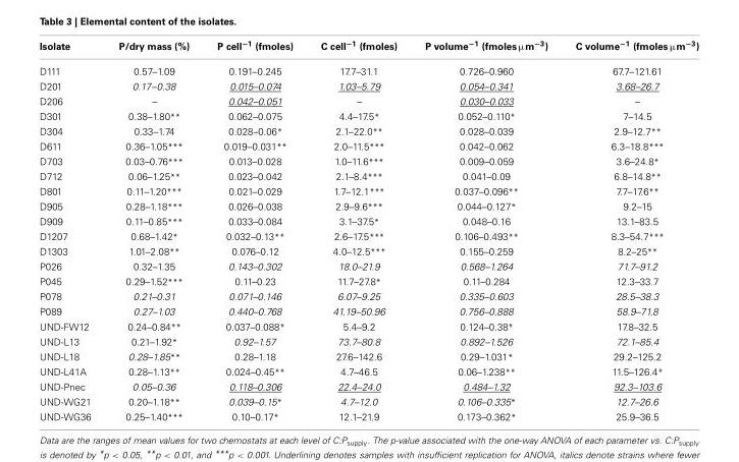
<table><thead><tr><td>Isolate</td><td>P/dry mass (%)</td><td>P cell<sup>−1</sup> (fmoles)</td><td>C cell<sup>−1</sup> (fmoles)</td><td>P volume<sup>−1</sup> (fmoles µm<sup>−3</sup>)</td><td>C volume<sup>−1</sup> (fmoles µm<sup>−3</sup>)</td></tr></thead><tbody><tr><td>D111</td><td>0.57–1.09</td><td>0.191–0.245</td><td>17.7–31.1</td><td>0.726–0.960</td><td>67.7–121.61</td></tr><tr><td>D201</td><td>0.17–0.38</td><td>0.015–0.074</td><td>1.03–5.79</td><td>0.054–0.341</td><td>3.68–26.7</td></tr><tr><td>D206</td><td>–</td><td>0.042–0.051</td><td>–</td><td>0.030–0.033</td><td>–</td></tr><tr><td>D301</td><td>0.38–1.80**</td><td>0.062–0.075</td><td>4.4–17.5*</td><td>0.052–0.110*</td><td>7–14.5</td></tr><tr><td>D304</td><td>0.33–1.74</td><td>0.028–0.06*</td><td>2.1–22.0**</td><td>0.028–0.039</td><td>2.9–12.7**</td></tr><tr><td>D611</td><td>0.36–1.05***</td><td>0.019–0.031**</td><td>2.0–11.5***</td><td>0.042–0.062</td><td>6.3–18.8***</td></tr><tr><td>D703</td><td>0.03–0.76***</td><td>0.013–0.028</td><td>1.0–11.6***</td><td>0.009–0.059</td><td>3.6–24.8*</td></tr><tr><td>D712</td><td>0.06–1.25**</td><td>0.023–0.042</td><td>2.1–8.4***</td><td>0.041–0.09</td><td>6.8–14.8**</td></tr><tr><td>D801</td><td>0.11–1.20***</td><td>0.021–0.029</td><td>1.7–12.1***</td><td>0.037–0.096**</td><td>7.7–17.6**</td></tr><tr><td>D905</td><td>0.28–1.18***</td><td>0.026–0.038</td><td>2.9–9.6***</td><td>0.044–0.127*</td><td>9.2–15</td></tr><tr><td>D909</td><td>0.11–0.85***</td><td>0.033–0.084</td><td>3.1–37.5*</td><td>0.048–0.16</td><td>13.1–83.5</td></tr><tr><td>D1207</td><td>0.68–1.42*</td><td>0.032–0.13**</td><td>2.6–17.5***</td><td>0.106–0.493**</td><td>8.3–54.7***</td></tr><tr><td>D1303</td><td>1.01–2.08**</td><td>0.076–0.12</td><td>4.0–12.5***</td><td>0.155–0.259</td><td>8.2–25**</td></tr><tr><td>P026</td><td>0.32–1.35</td><td>0.143–0.302</td><td>18.0–21.9</td><td>0.568–1.264</td><td>71.7–91.2</td></tr><tr><td>P045</td><td>0.29–1.52***</td><td>0.11–0.23</td><td>11.7–27.8*</td><td>0.11–0.284</td><td>12.3–33.7</td></tr><tr><td>P078</td><td>0.21–0.31</td><td>0.071–0.146</td><td>6.07–9.25</td><td>0.335–0.603</td><td>28.5–38.3</td></tr><tr><td>P089</td><td>0.27–1.03</td><td>0.440–0.768</td><td>41.19–50.96</td><td>0.756–0.888</td><td>58.9–71.8</td></tr><tr><td>UND-FW12</td><td>0.24–0.84**</td><td>0.037–0.088*</td><td>5.4–9.2</td><td>0.124–0.38*</td><td>17.8–32.5</td></tr><tr><td>UND-L13</td><td>0.21–1.92*</td><td>0.92–1.57</td><td>73.7–80.8</td><td>0.892–1.526</td><td>72.1–85.4</td></tr><tr><td>UND-L18</td><td>0.28–1.85**</td><td>0.28–1.18</td><td>27.6–142.6</td><td>0.29–1.031*</td><td>29.2–125.2</td></tr><tr><td>UND-L41A</td><td>0.28–1.13**</td><td>0.024–0.45**</td><td>4.7–46.5</td><td>0.06–1.238**</td><td>11.5–126.4*</td></tr><tr><td>UND-Pnec</td><td>0.05–0.36</td><td>0.118–0.306</td><td>22.4–24.0</td><td>0.484–1.32</td><td>92.3–103.6</td></tr><tr><td>UND-WG21</td><td>0.20–1.18**</td><td>0.039–0.15*</td><td>4.7–12.0</td><td>0.106–0.335*</td><td>12.7–26.6</td></tr><tr><td>UND-WG36</td><td>0.25–1.40***</td><td>0.10–0.17*</td><td>12.1–21.9</td><td>0.173–0.362*</td><td>25.9–36.5</td></tr></tbody></table>